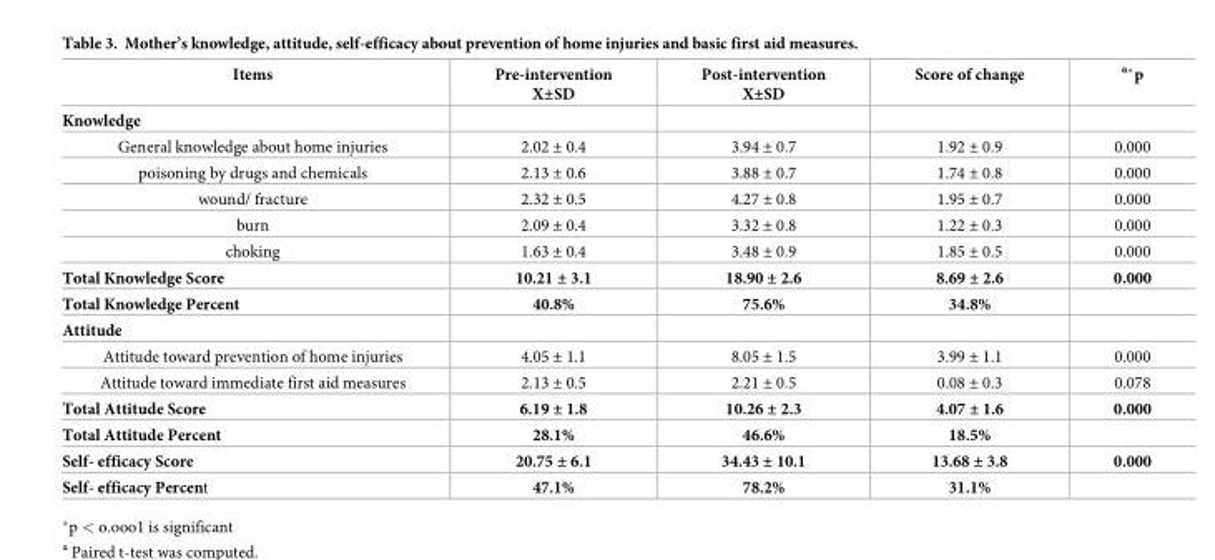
<table><thead><tr><td>Items</td><td>Pre-intervention X±SD</td><td>Post-intervention X±SD</td><td>Score of change</td><td><sup>a</sup>*p</td></tr></thead><tbody><tr><td colspan="5">Knowledge</td></tr><tr><td>General knowledge about home injuries</td><td>2.02 ± 0.4</td><td>3.94 ± 0.7</td><td>1.92 ± 0.9</td><td>0.000</td></tr><tr><td>poisoning by drugs and chemicals</td><td>2.13 ± 0.6</td><td>3.88 ± 0.7</td><td>1.74 ± 0.8</td><td>0.000</td></tr><tr><td>wound/ fracture</td><td>2.32 ± 0.5</td><td>4.27 ± 0.8</td><td>1.95 ± 0.7</td><td>0.000</td></tr><tr><td>burn</td><td>2.09 ± 0.4</td><td>3.32 ± 0.8</td><td>1.22 ± 0.3</td><td>0.000</td></tr><tr><td>choking</td><td>1.63 ± 0.4</td><td>3.48 ± 0.9</td><td>1.85 ± 0.5</td><td>0.000</td></tr><tr><td>Total Knowledge Score</td><td>10.21 ± 3.1</td><td>18.90 ± 2.6</td><td>8.69 ± 2.6</td><td>0.000</td></tr><tr><td>Total Knowledge Percent</td><td>40.8%</td><td>75.6%</td><td>34.8%</td><td></td></tr><tr><td colspan="5">Attitude</td></tr><tr><td>Attitude toward prevention of home injuries</td><td>4.05 ± 1.1</td><td>8.05 ± 1.5</td><td>3.99 ± 1.1</td><td>0.000</td></tr><tr><td>Attitude toward immediate first aid measures</td><td>2.13 ± 0.5</td><td>2.21 ± 0.5</td><td>0.08 ± 0.3</td><td>0.078</td></tr><tr><td>Total Attitude Score</td><td>6.19 ± 1.8</td><td>10.26 ± 2.3</td><td>4.07 ± 1.6</td><td>0.000</td></tr><tr><td>Total Attitude Percent</td><td>28.1%</td><td>46.6%</td><td>18.5%</td><td></td></tr><tr><td>Self- efficacy Score</td><td>20.75 ± 6.1</td><td>34.43 ± 10.1</td><td>13.68 ± 3.8</td><td>0.000</td></tr><tr><td>Self- efficacy Percent</td><td>47.1%</td><td>78.2%</td><td>31.1%</td><td></td></tr></tbody></table>